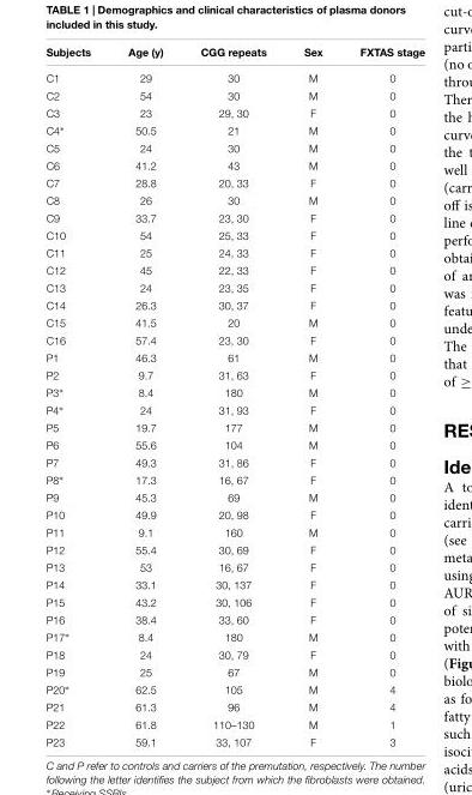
<table><thead><tr><td>Subjects</td><td>Age (y)</td><td>CGG repeats</td><td>Sex</td><td>FXTAS stage</td></tr></thead><tbody><tr><td>C1</td><td>29</td><td>30</td><td>M</td><td>0</td></tr><tr><td>C2</td><td>54</td><td>30</td><td>M</td><td>0</td></tr><tr><td>C3</td><td>23</td><td>29, 30</td><td>F</td><td>0</td></tr><tr><td>C4∗</td><td>50.5</td><td>21</td><td>M</td><td>0</td></tr><tr><td>C5</td><td>24</td><td>30</td><td>M</td><td>0</td></tr><tr><td>C6</td><td>41.2</td><td>43</td><td>M</td><td>0</td></tr><tr><td>C7</td><td>28.8</td><td>20, 33</td><td>F</td><td>0</td></tr><tr><td>C8</td><td>26</td><td>30</td><td>M</td><td>0</td></tr><tr><td>C9</td><td>33.7</td><td>23, 30</td><td>F</td><td>0</td></tr><tr><td>C10</td><td>54</td><td>25, 33</td><td>F</td><td>0</td></tr><tr><td>C11</td><td>25</td><td>24, 33</td><td>F</td><td>0</td></tr><tr><td>C12</td><td>45</td><td>22, 33</td><td>F</td><td>0</td></tr><tr><td>C13</td><td>24</td><td>23, 35</td><td>F</td><td>0</td></tr><tr><td>C14</td><td>26.3</td><td>30, 37</td><td>F</td><td>0</td></tr><tr><td>C15</td><td>41.5</td><td>20</td><td>M</td><td>0</td></tr><tr><td>C16</td><td>57.4</td><td>23, 30</td><td>F</td><td>0</td></tr><tr><td>P1</td><td>46.3</td><td>61</td><td>M</td><td>0</td></tr><tr><td>P2</td><td>9.7</td><td>31, 63</td><td>F</td><td>0</td></tr><tr><td>P3∗</td><td>8.4</td><td>180</td><td>M</td><td>0</td></tr><tr><td>P4∗</td><td>24</td><td>31, 93</td><td>F</td><td>0</td></tr><tr><td>P5</td><td>19.7</td><td>177</td><td>M</td><td>0</td></tr><tr><td>P6</td><td>55.6</td><td>104</td><td>M</td><td>0</td></tr><tr><td>P7</td><td>49.3</td><td>31, 86</td><td>F</td><td>0</td></tr><tr><td>P8∗</td><td>17.3</td><td>16, 67</td><td>F</td><td>0</td></tr><tr><td>P9</td><td>45.3</td><td>69</td><td>M</td><td>0</td></tr><tr><td>P10</td><td>49.9</td><td>20, 98</td><td>F</td><td>0</td></tr><tr><td>P11</td><td>9.1</td><td>160</td><td>M</td><td>0</td></tr><tr><td>P12</td><td>55.4</td><td>30, 69</td><td>F</td><td>0</td></tr><tr><td>P13</td><td>53</td><td>16, 67</td><td>F</td><td>0</td></tr><tr><td>P14</td><td>33.1</td><td>30, 137</td><td>F</td><td>0</td></tr><tr><td>P15</td><td>43.2</td><td>30, 106</td><td>F</td><td>0</td></tr><tr><td>P16</td><td>38.4</td><td>33, 60</td><td>F</td><td>0</td></tr><tr><td>P17∗</td><td>8.4</td><td>180</td><td>M</td><td>0</td></tr><tr><td>P18</td><td>24</td><td>30, 79</td><td>F</td><td>0</td></tr><tr><td>P19</td><td>25</td><td>67</td><td>M</td><td>0</td></tr><tr><td>P20∗</td><td>62.5</td><td>105</td><td>M</td><td>4</td></tr><tr><td>P21</td><td>61.3</td><td>96</td><td>M</td><td>4</td></tr><tr><td>P22</td><td>61.8</td><td>110–130</td><td>M</td><td>1</td></tr><tr><td>P23</td><td>59.1</td><td>33, 107</td><td>F</td><td>3</td></tr></tbody></table>